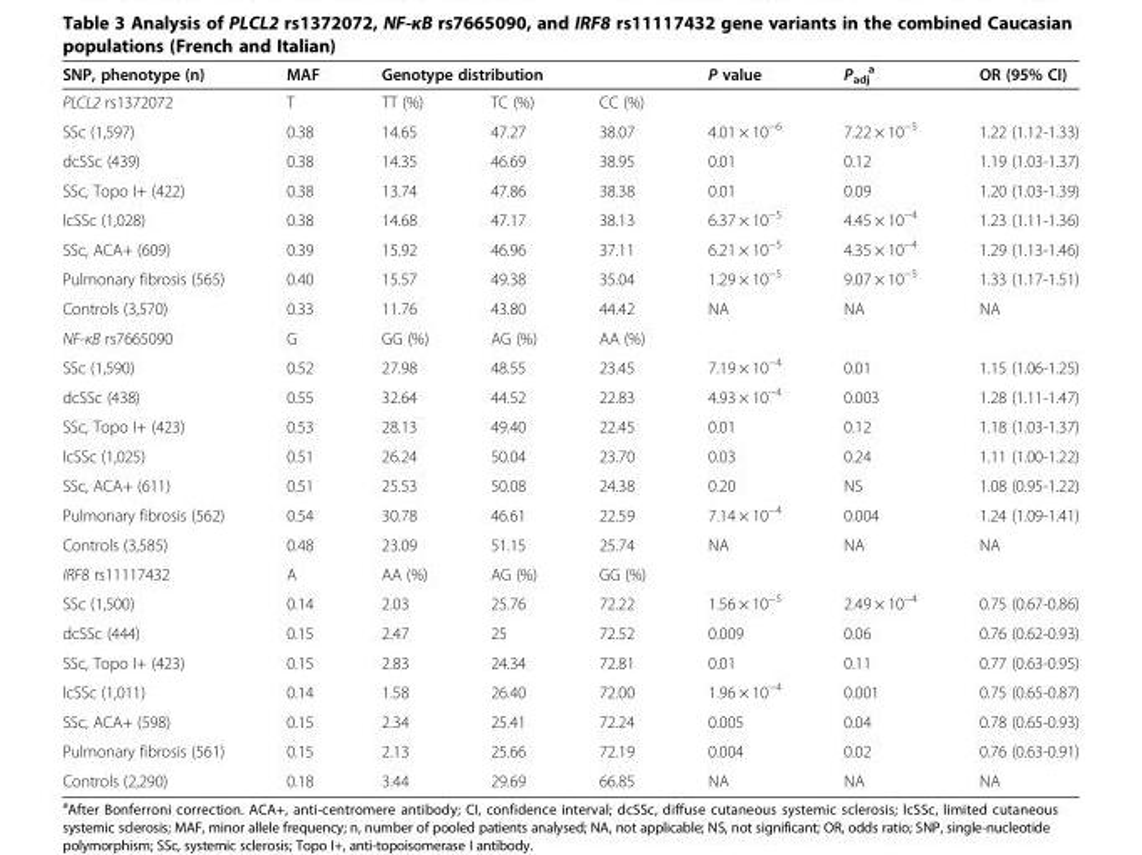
<table><thead><tr><td rowspan="2">SNP, phenotype (n) PLCL2 rs1372072</td><td rowspan="2">MAF T</td><td colspan="3">Genotype distribution</td><td rowspan="2">P value</td><td rowspan="2">P<sub>adj</sub> <sup>a</sup></td><td rowspan="2">OR (95% CI)</td></tr><tr><td>TT (%)</td><td>TC (%)</td><td>CC (%)</td></tr></thead><tbody><tr><td>SSc (1,597)</td><td>0.38</td><td>14.65</td><td>47.27</td><td>38.07</td><td>4.01 × 10<sup>−6</sup></td><td>7.22 × 10<sup>−5</sup></td><td>1.22 (1.12-1.33)</td></tr><tr><td>dcSSc (439)</td><td>0.38</td><td>14.35</td><td>46.69</td><td>38.95</td><td>0.01</td><td>0.12</td><td>1.19 (1.03-1.37)</td></tr><tr><td>SSc, Topo I+ (422)</td><td>0.38</td><td>13.74</td><td>47.86</td><td>38.38</td><td>0.01</td><td>0.09</td><td>1.20 (1.03-1.39)</td></tr><tr><td>lcSSc (1,028)</td><td>0.38</td><td>14.68</td><td>47.17</td><td>38.13</td><td>6.37 × 10<sup>−5</sup></td><td>4.45 × 10<sup>−4</sup></td><td>1.23 (1.11-1.36)</td></tr><tr><td>SSc, ACA+ (609)</td><td>0.39</td><td>15.92</td><td>46.96</td><td>37.11</td><td>6.21 × 10<sup>−5</sup></td><td>4.35 × 10<sup>−4</sup></td><td>1.29 (1.13-1.46)</td></tr><tr><td>Pulmonary fibrosis (565)</td><td>0.40</td><td>15.57</td><td>49.38</td><td>35.04</td><td>1.29 × 10<sup>−5</sup></td><td>9.07 × 10<sup>−5</sup></td><td>1.33 (1.17-1.51)</td></tr><tr><td>Controls (3,570)</td><td>0.33</td><td>11.76</td><td>43.80</td><td>44.42</td><td>NA</td><td>NA</td><td>NA</td></tr><tr><td>NF-κB rs7665090</td><td>G</td><td>GG (%)</td><td>AG (%)</td><td>AA (%)</td><td></td><td></td><td></td></tr><tr><td>SSc (1,590)</td><td>0.52</td><td>27.98</td><td>48.55</td><td>23.45</td><td>7.19 × 10<sup>−4</sup></td><td>0.01</td><td>1.15 (1.06-1.25)</td></tr><tr><td>dcSSc (438)</td><td>0.55</td><td>32.64</td><td>44.52</td><td>22.83</td><td>4.93 × 10<sup>−4</sup></td><td>0.003</td><td>1.28 (1.11-1.47)</td></tr><tr><td>SSc, Topo I+ (423)</td><td>0.53</td><td>28.13</td><td>49.40</td><td>22.45</td><td>0.01</td><td>0.12</td><td>1.18 (1.03-1.37)</td></tr><tr><td>lcSSc (1,025)</td><td>0.51</td><td>26.24</td><td>50.04</td><td>23.70</td><td>0.03</td><td>0.24</td><td>1.11 (1.00-1.22)</td></tr><tr><td>SSc, ACA+ (611)</td><td>0.51</td><td>25.53</td><td>50.08</td><td>24.38</td><td>0.20</td><td>NS</td><td>1.08 (0.95-1.22)</td></tr><tr><td>Pulmonary fibrosis (562)</td><td>0.54</td><td>30.78</td><td>46.61</td><td>22.59</td><td>7.14 × 10<sup>−4</sup></td><td>0.004</td><td>1.24 (1.09-1.41)</td></tr><tr><td>Controls (3,585)</td><td>0.48</td><td>23.09</td><td>51.15</td><td>25.74</td><td>NA</td><td>NA</td><td>NA</td></tr><tr><td>IRF8 rs11117432</td><td>A</td><td>AA (%)</td><td>AG (%)</td><td>GG (%)</td><td></td><td></td><td></td></tr><tr><td>SSc (1,500)</td><td>0.14</td><td>2.03</td><td>25.76</td><td>72.22</td><td>1.56 × 10<sup>−5</sup></td><td>2.49 × 10<sup>−4</sup></td><td>0.75 (0.67-0.86)</td></tr><tr><td>dcSSc (444)</td><td>0.15</td><td>2.47</td><td>25</td><td>72.52</td><td>0.009</td><td>0.06</td><td>0.76 (0.62-0.93)</td></tr><tr><td>SSc, Topo I+ (423)</td><td>0.15</td><td>2.83</td><td>24.34</td><td>72.81</td><td>0.01</td><td>0.11</td><td>0.77 (0.63-0.95)</td></tr><tr><td>lcSSc (1,011)</td><td>0.14</td><td>1.58</td><td>26.40</td><td>72.00</td><td>1.96 × 10<sup>−4</sup></td><td>0.001</td><td>0.75 (0.65-0.87)</td></tr><tr><td>SSc, ACA+ (598)</td><td>0.15</td><td>2.34</td><td>25.41</td><td>72.24</td><td>0.005</td><td>0.04</td><td>0.78 (0.65-0.93)</td></tr><tr><td>Pulmonary fibrosis (561)</td><td>0.15</td><td>2.13</td><td>25.66</td><td>72.19</td><td>0.004</td><td>0.02</td><td>0.76 (0.63-0.91)</td></tr><tr><td>Controls (2,290)</td><td>0.18</td><td>3.44</td><td>29.69</td><td>66.85</td><td>NA</td><td>NA</td><td>NA</td></tr></tbody></table>